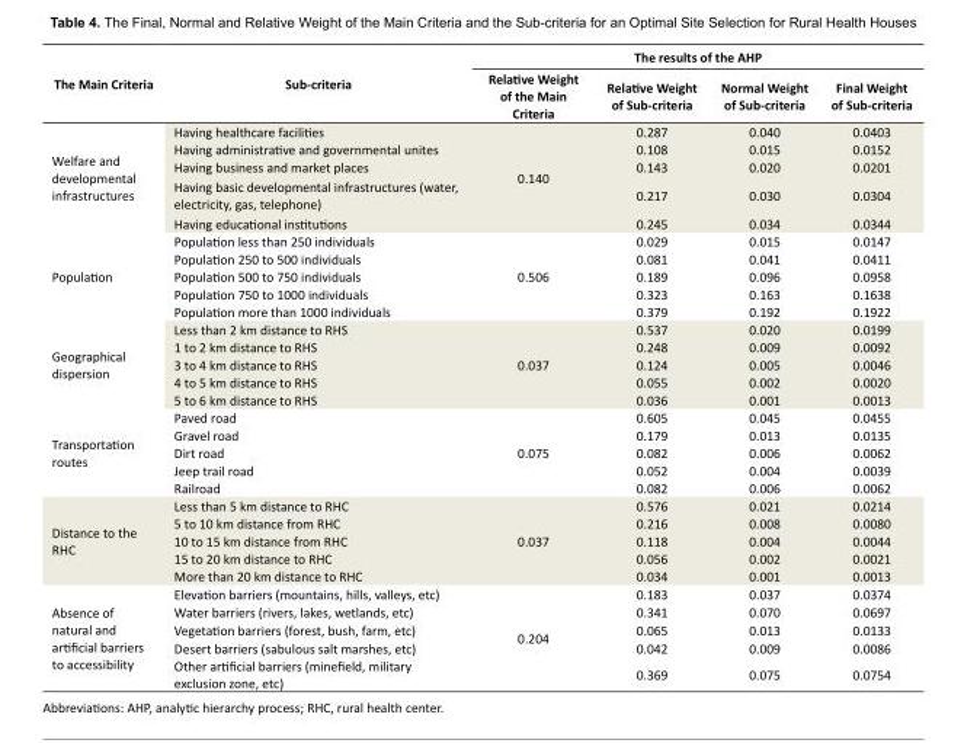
<table><tbody><tr><td rowspan="2">The Main Criteria</td><td rowspan="2">Sub-criteria</td><td colspan="4">The results of the AHP</td></tr><tr><td>Relative Weight of the Main Criteria</td><td>Relative Weight of Sub-criteria</td><td>Normal Weight of Sub-criteria</td><td>Final Weight of Sub-criteria</td></tr><tr><td rowspan="5">Welfare and developmental infrastructures</td><td>Having healthcare facilities</td><td rowspan="5">0.140</td><td>0.287</td><td>0.040</td><td>0.0403</td></tr><tr><td>Having administrative and governmental unites</td><td>0.108</td><td>0.015</td><td>0.0152</td></tr><tr><td>Having business and market places</td><td>0.143</td><td>0.020</td><td>0.0201</td></tr><tr><td>Having basic developmental infrastructures (water, electricity, gas, telephone)</td><td>0.217</td><td>0.030</td><td>0.0304</td></tr><tr><td>Having educational institutions</td><td>0.245</td><td>0.034</td><td>0.0344</td></tr><tr><td rowspan="5">Population</td><td>Population less than 250 individuals</td><td rowspan="5">0.506</td><td>0.029</td><td>0.015</td><td>0.0147</td></tr><tr><td>Population 250 to 500 individuals</td><td>0.081</td><td>0.041</td><td>0.0411</td></tr><tr><td>Population 500 to 750 individuals</td><td>0.189</td><td>0.096</td><td>0.0958</td></tr><tr><td>Population 750 to 1000 individuals</td><td>0.323</td><td>0.163</td><td>0.1638</td></tr><tr><td>Population more than 1000 individuals</td><td>0.379</td><td>0.192</td><td>0.1922</td></tr><tr><td rowspan="5">Geographical dispersion</td><td>Less than 2 km distance to RHS</td><td rowspan="5">0.037</td><td>0.537</td><td>0.020</td><td>0.0199</td></tr><tr><td>1 to 2 km distance to RHS</td><td>0.248</td><td>0.009</td><td>0.0092</td></tr><tr><td>3 to 4 km distance to RHS</td><td>0.124</td><td>0.005</td><td>0.0046</td></tr><tr><td>4 to 5 km distance to RHS</td><td>0.055</td><td>0.002</td><td>0.0020</td></tr><tr><td>5 to 6 km distance to RHS</td><td>0.036</td><td>0.001</td><td>0.0013</td></tr><tr><td rowspan="5">Transportation routes</td><td>Paved road</td><td rowspan="5">0.075</td><td>0.605</td><td>0.045</td><td>0.0455</td></tr><tr><td>Gravel road</td><td>0.179</td><td>0.013</td><td>0.0135</td></tr><tr><td>Dirt road</td><td>0.082</td><td>0.006</td><td>0.0062</td></tr><tr><td>Jeep trail road</td><td>0.052</td><td>0.004</td><td>0.0039</td></tr><tr><td>Railroad</td><td>0.082</td><td>0.006</td><td>0.0062</td></tr><tr><td rowspan="5">Distance to the RHC</td><td>Less than 5 km distance to RHC</td><td rowspan="5">0.037</td><td>0.576</td><td>0.021</td><td>0.0214</td></tr><tr><td>5 to 10 km distance from RHC</td><td>0.216</td><td>0.008</td><td>0.0080</td></tr><tr><td>10 to 15 km distance from RHC</td><td>0.118</td><td>0.004</td><td>0.0044</td></tr><tr><td>15 to 20 km distance to RHC</td><td>0.056</td><td>0.002</td><td>0.0021</td></tr><tr><td>More than 20 km distance to RHC</td><td>0.034</td><td>0.001</td><td>0.0013</td></tr><tr><td rowspan="5">Absence of natural and artificial barriers to accessibility</td><td>Elevation barriers (mountains, hills, valleys, etc)</td><td rowspan="5">0.204</td><td>0.183</td><td>0.037</td><td>0.0374</td></tr><tr><td>Water barriers (rivers, lakes, wetlands, etc)</td><td>0.341</td><td>0.070</td><td>0.0697</td></tr><tr><td>Vegetation barriers (forest, bush, farm, etc)</td><td>0.065</td><td>0.013</td><td>0.0133</td></tr><tr><td>Desert barriers (sabulous salt marshes, etc)</td><td>0.042</td><td>0.009</td><td>0.0086</td></tr><tr><td>Other artificial barriers (minefield, military exclusion zone, etc)</td><td>0.369</td><td>0.075</td><td>0.0754</td></tr></tbody></table>